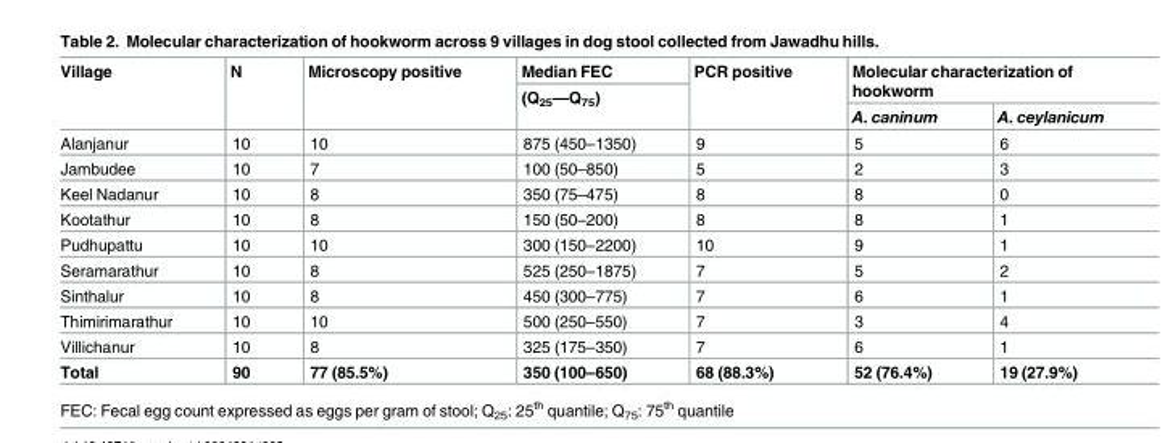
<table><thead><tr><td rowspan="3">Village</td><td rowspan="3">N</td><td rowspan="3">Microscopy positive</td><td rowspan="3">Median FEC (Q<sub>25</sub>—Q<sub>75</sub>)</td><td rowspan="3">PCR positive</td><td rowspan="2" colspan="2">Molecular characterization of hookworm</td></tr><tr></tr><tr><td>A. caninum</td><td>A. ceylanicum</td></tr></thead><tbody><tr><td>Alanjanur</td><td>10</td><td>10</td><td>875 (450–1350)</td><td>9</td><td>5</td><td>6</td></tr><tr><td>Jambudee</td><td>10</td><td>7</td><td>100 (50–850)</td><td>5</td><td>2</td><td>3</td></tr><tr><td>Keel Nadanur</td><td>10</td><td>8</td><td>350 (75–475)</td><td>8</td><td>8</td><td>0</td></tr><tr><td>Kootathur</td><td>10</td><td>8</td><td>150 (50–200)</td><td>8</td><td>8</td><td>1</td></tr><tr><td>Pudhupattu</td><td>10</td><td>10</td><td>300 (150–2200)</td><td>10</td><td>9</td><td>1</td></tr><tr><td>Seramarathur</td><td>10</td><td>8</td><td>525 (250–1875)</td><td>7</td><td>5</td><td>2</td></tr><tr><td>Sinthalur</td><td>10</td><td>8</td><td>450 (300–775)</td><td>7</td><td>6</td><td>1</td></tr><tr><td>Thimirimarathur</td><td>10</td><td>10</td><td>500 (250–550)</td><td>7</td><td>3</td><td>4</td></tr><tr><td>Villichanur</td><td>10</td><td>8</td><td>325 (175–350)</td><td>7</td><td>6</td><td>1</td></tr><tr><td>Total</td><td>90</td><td>77 (85.5%)</td><td>350 (100–650)</td><td>68 (88.3%)</td><td>52 (76.4%)</td><td>19 (27.9%)</td></tr></tbody></table>